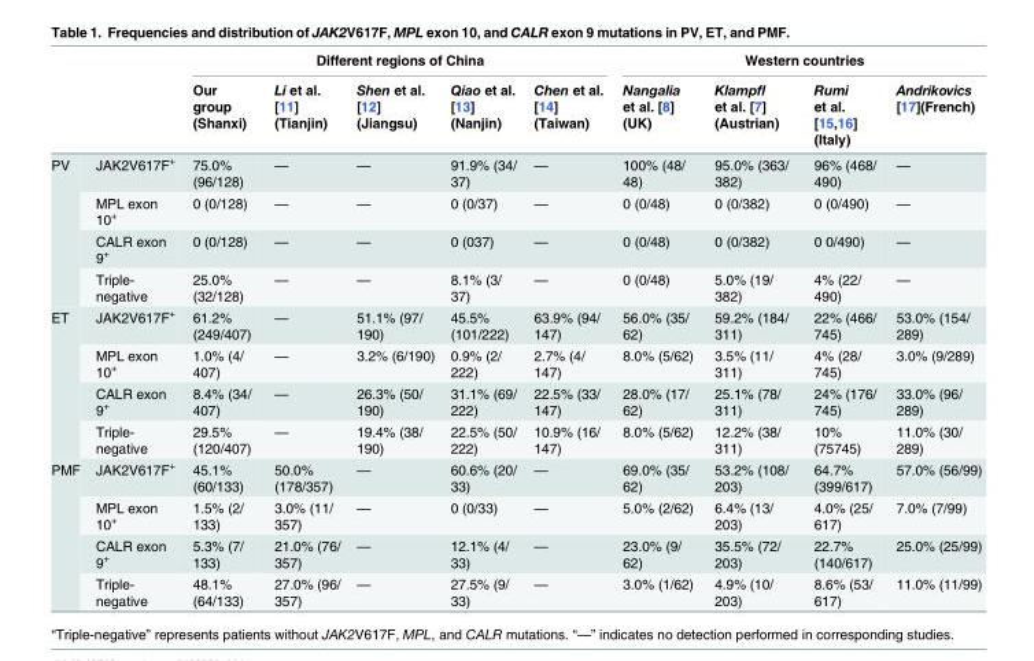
<table><thead><tr><td rowspan="2"></td><td rowspan="2"></td><td colspan="5">Different regions of China</td><td colspan="4">Western countries</td></tr><tr><td>Our group (Shanxi)</td><td>Li et al. [11] (Tianjin)</td><td>Shen et al. [12] (Jiangsu)</td><td>Qiao et al. [13] (Nanjin)</td><td>Chen et al. [14] (Taiwan)</td><td>Nangalia et al. [8] (UK)</td><td>Klampfl et al. [7] (Austrian)</td><td>Rumi et al. [15,16] (Italy)</td><td>Andrikovics [17](French)</td></tr></thead><tbody><tr><td rowspan="4">PV</td><td>JAK2V617F<sup>+</sup></td><td>75.0% (96/128)</td><td>—</td><td>—</td><td>91.9% (34/ 37)</td><td>—</td><td>100% (48/ 48)</td><td>95.0% (363/ 382)</td><td>96% (468/ 490)</td><td>—</td></tr><tr><td>MPL exon 10<sup>+</sup></td><td>0 (0/128)</td><td>—</td><td>—</td><td>0 (0/37)</td><td>—</td><td>0 (0/48)</td><td>0 (0/382)</td><td>0 (0/490)</td><td>—</td></tr><tr><td>CALR exon 9<sup>+</sup></td><td>0 (0/128)</td><td>—</td><td>—</td><td>0 (037)</td><td>—</td><td>0 (0/48)</td><td>0 (0/382)</td><td>0 0/490)</td><td>—</td></tr><tr><td>Triple- negative</td><td>25.0% (32/128)</td><td>—</td><td>—</td><td>8.1% (3/ 37)</td><td>—</td><td>0 (0/48)</td><td>5.0% (19/ 382)</td><td>4% (22/ 490)</td><td>—</td></tr><tr><td rowspan="4">ET</td><td>JAK2V617F<sup>+</sup></td><td>61.2% (249/407)</td><td>—</td><td>51.1% (97/ 190)</td><td>45.5% (101/222)</td><td>63.9% (94/ 147)</td><td>56.0% (35/ 62)</td><td>59.2% (184/ 311)</td><td>22% (466/ 745)</td><td>53.0% (154/ 289)</td></tr><tr><td>MPL exon 10<sup>+</sup></td><td>1.0% (4/ 407)</td><td>—</td><td>3.2% (6/190)</td><td>0.9% (2/ 222)</td><td>2.7% (4/ 147)</td><td>8.0% (5/62)</td><td>3.5% (11/ 311)</td><td>4% (28/ 745)</td><td>3.0% (9/289)</td></tr><tr><td>CALR exon 9<sup>+</sup></td><td>8.4% (34/ 407)</td><td>—</td><td>26.3% (50/ 190)</td><td>31.1% (69/ 222)</td><td>22.5% (33/ 147)</td><td>28.0% (17/ 62)</td><td>25.1% (78/ 311)</td><td>24% (176/ 745)</td><td>33.0% (96/ 289)</td></tr><tr><td>Triple- negative</td><td>29.5% (120/407)</td><td>—</td><td>19.4% (38/ 190)</td><td>22.5% (50/ 222)</td><td>10.9% (16/ 147)</td><td>8.0% (5/62)</td><td>12.2% (38/ 311)</td><td>10% (75745)</td><td>11.0% (30/ 289)</td></tr><tr><td rowspan="4">PMF</td><td>JAK2V617F<sup>+</sup></td><td>45.1% (60/133)</td><td>50.0% (178/357)</td><td>—</td><td>60.6% (20/ 33)</td><td>—</td><td>69.0% (35/ 62)</td><td>53.2% (108/ 203)</td><td>64.7% (399/617)</td><td>57.0% (56/99)</td></tr><tr><td>MPL exon 10<sup>+</sup></td><td>1.5% (2/ 133)</td><td>3.0% (11/ 357)</td><td>—</td><td>0 (0/33)</td><td>—</td><td>5.0% (2/62)</td><td>6.4% (13/ 203)</td><td>4.0% (25/ 617)</td><td>7.0% (7/99)</td></tr><tr><td>CALR exon 9<sup>+</sup></td><td>5.3% (7/ 133)</td><td>21.0% (76/ 357)</td><td>—</td><td>12.1% (4/ 33)</td><td>—</td><td>23.0% (9/ 62)</td><td>35.5% (72/ 203)</td><td>22.7% (140/617)</td><td>25.0% (25/99)</td></tr><tr><td>Triple- negative</td><td>48.1% (64/133)</td><td>27.0% (96/ 357)</td><td>—</td><td>27.5% (9/ 33)</td><td>—</td><td>3.0% (1/62)</td><td>4.9% (10/ 203)</td><td>8.6% (53/ 617)</td><td>11.0% (11/99)</td></tr></tbody></table>